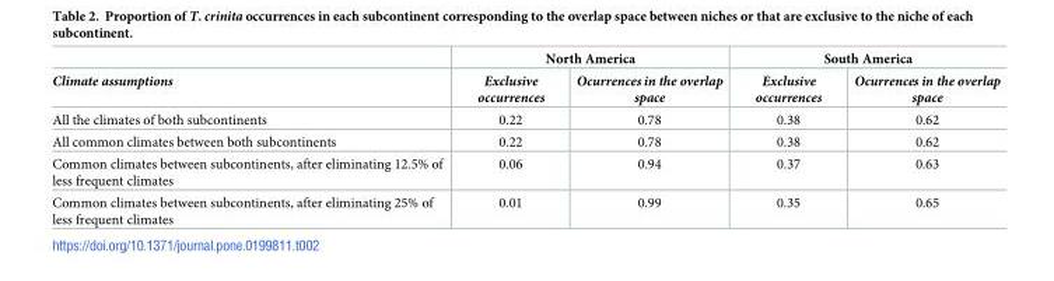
<table><thead><tr><td rowspan="2">Climate assumptions</td><td colspan="2">North America</td><td colspan="2">South America</td></tr><tr><td>Exclusive occurrences</td><td>Ocurrences in the overlap space</td><td>Exclusive occurrences</td><td>Ocurrences in the overlap space</td></tr></thead><tbody><tr><td>All the climates of both subcontinents</td><td>0.22</td><td>0.78</td><td>0.38</td><td>0.62</td></tr><tr><td>All common climates between both subcontinents</td><td>0.22</td><td>0.78</td><td>0.38</td><td>0.62</td></tr><tr><td>Common climates between subcontinents, after eliminating 12.5% of less frequent climates</td><td>0.06</td><td>0.94</td><td>0.37</td><td>0.63</td></tr><tr><td>Common climates between subcontinents, after eliminating 25% of less frequent climates</td><td>0.01</td><td>0.99</td><td>0.35</td><td>0.65</td></tr></tbody></table>